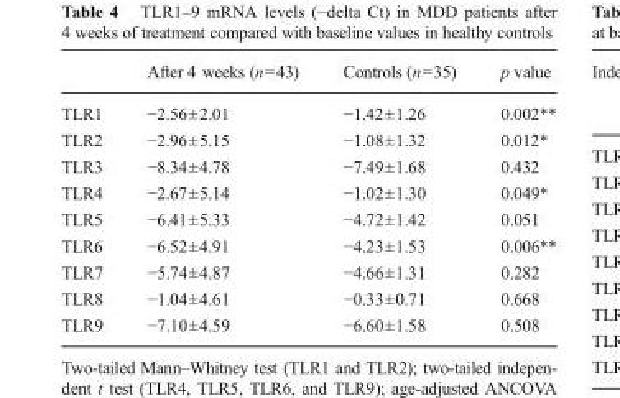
<table><thead><tr><td></td><td>After 4 weeks (n=43)</td><td>Controls (n=35)</td><td>p value</td></tr></thead><tbody><tr><td>TLR1</td><td>−2.56±2.01</td><td>−1.42±1.26</td><td>0.002**</td></tr><tr><td>TLR2</td><td>−2.96±5.15</td><td>−1.08±1.32</td><td>0.012*</td></tr><tr><td>TLR3</td><td>−8.34±4.78</td><td>−7.49±1.68</td><td>0.432</td></tr><tr><td>TLR4</td><td>−2.67±5.14</td><td>−1.02±1.30</td><td>0.049*</td></tr><tr><td>TLR5</td><td>−6.41±5.33</td><td>−4.72±1.42</td><td>0.051</td></tr><tr><td>TLR6</td><td>−6.52±4.91</td><td>−4.23±1.53</td><td>0.006**</td></tr><tr><td>TLR7</td><td>−5.74±4.87</td><td>−4.66±1.31</td><td>0.282</td></tr><tr><td>TLR8</td><td>−1.04±4.61</td><td>−0.33±0.71</td><td>0.668</td></tr><tr><td>TLR9</td><td>−7.10±4.59</td><td>−6.60±1.58</td><td>0.508</td></tr></tbody></table>